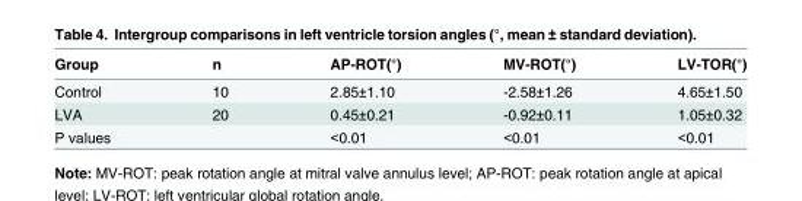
<table><thead><tr><td>Group</td><td>n</td><td>AP-ROT(°)</td><td>MV-ROT(°)</td><td>LV-TOR(°)</td></tr></thead><tbody><tr><td>Control</td><td>10</td><td>2.85±1.10</td><td>-2.58±1.26</td><td>4.65±1.50</td></tr><tr><td>LVA</td><td>20</td><td>0.45±0.21</td><td>-0.92±0.11</td><td>1.05±0.32</td></tr><tr><td>P values</td><td></td><td>&lt;0.01</td><td>&lt;0.01</td><td>&lt;0.01</td></tr></tbody></table>